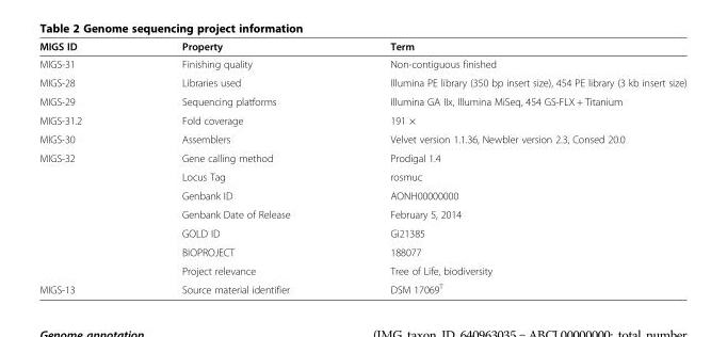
<table><thead><tr><td>MIGS ID</td><td>Property</td><td>Term</td></tr></thead><tbody><tr><td>MIGS-31</td><td>Finishing quality</td><td>Non-contiguous finished</td></tr><tr><td>MIGS-28</td><td>Libraries used</td><td>Illumina PE library (350 bp insert size), 454 PE library (3 kb insert size)</td></tr><tr><td>MIGS-29</td><td>Sequencing platforms</td><td>Illumina GA IIx, Illumina MiSeq, 454 GS-FLX + Titanium</td></tr><tr><td>MIGS-31.2</td><td>Fold coverage</td><td>191 ×</td></tr><tr><td>MIGS-30</td><td>Assemblers</td><td>Velvet version 1.1.36, Newbler version 2.3, Consed 20.0</td></tr><tr><td rowspan="7">MIGS-32</td><td>Gene calling method</td><td>Prodigal 1.4</td></tr><tr><td>Locus Tag</td><td>rosmuc</td></tr><tr><td>Genbank ID</td><td>AONH00000000</td></tr><tr><td>Genbank Date of Release</td><td>February 5, 2014</td></tr><tr><td>GOLD ID</td><td>Gi21385</td></tr><tr><td>BIOPROJECT</td><td>188077</td></tr><tr><td>Project relevance</td><td>Tree of Life, biodiversity</td></tr><tr><td>MIGS-13</td><td>Source material identifier</td><td>DSM 17069<sup>T</sup></td></tr></tbody></table>